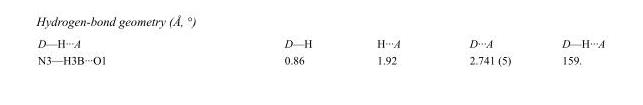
<table><tbody><tr><td>D—H···A</td><td>D—H</td><td>H···A</td><td>D···A</td><td>D—H···A</td></tr><tr><td>N3—H3B···O1</td><td>0.86</td><td>1.92</td><td>2.741 (5)</td><td>159.</td></tr></tbody></table>